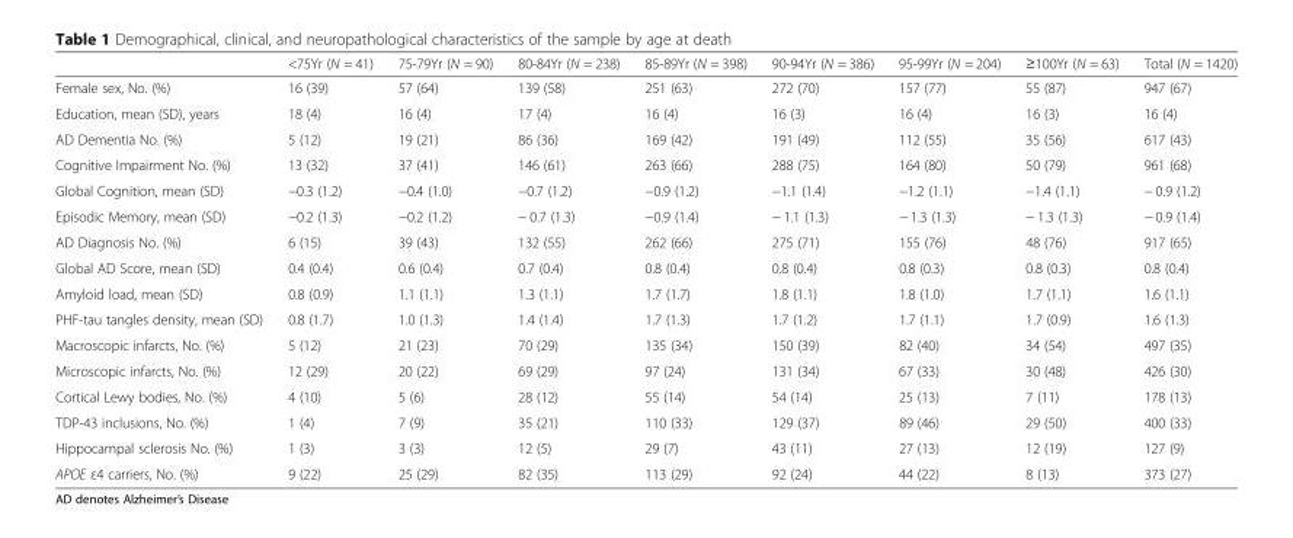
<table><thead><tr><td></td><td>&lt;75Yr (N = 41)</td><td>75-79Yr (N = 90)</td><td>80-84Yr (N = 238)</td><td>85-89Yr (N = 398)</td><td>90-94Yr (N = 386)</td><td>95-99Yr (N = 204)</td><td>≥100Yr (N = 63)</td><td>Total (N = 1420)</td></tr></thead><tbody><tr><td>Female sex, No. (%)</td><td>16 (39)</td><td>57 (64)</td><td>139 (58)</td><td>251 (63)</td><td>272 (70)</td><td>157 (77)</td><td>55 (87)</td><td>947 (67)</td></tr><tr><td>Education, mean (SD), years</td><td>18 (4)</td><td>16 (4)</td><td>17 (4)</td><td>16 (4)</td><td>16 (3)</td><td>16 (4)</td><td>16 (3)</td><td>16 (4)</td></tr><tr><td>AD Dementia No. (%)</td><td>5 (12)</td><td>19 (21)</td><td>86 (36)</td><td>169 (42)</td><td>191 (49)</td><td>112 (55)</td><td>35 (56)</td><td>617 (43)</td></tr><tr><td>Cognitive Impairment No. (%)</td><td>13 (32)</td><td>37 (41)</td><td>146 (61)</td><td>263 (66)</td><td>288 (75)</td><td>164 (80)</td><td>50 (79)</td><td>961 (68)</td></tr><tr><td>Global Cognition, mean (SD)</td><td>−0.3 (1.2)</td><td>−0.4 (1.0)</td><td>−0.7 (1.2)</td><td>−0.9 (1.2)</td><td>−1.1 (1.4)</td><td>−1.2 (1.1)</td><td>−1.4 (1.1)</td><td>− 0.9 (1.2)</td></tr><tr><td>Episodic Memory, mean (SD)</td><td>−0.2 (1.3)</td><td>−0.2 (1.2)</td><td>− 0.7 (1.3)</td><td>−0.9 (1.4)</td><td>− 1.1 (1.3)</td><td>− 1.3 (1.3)</td><td>− 1.3 (1.3)</td><td>− 0.9 (1.4)</td></tr><tr><td>AD Diagnosis No. (%)</td><td>6 (15)</td><td>39 (43)</td><td>132 (55)</td><td>262 (66)</td><td>275 (71)</td><td>155 (76)</td><td>48 (76)</td><td>917 (65)</td></tr><tr><td>Global AD Score, mean (SD)</td><td>0.4 (0.4)</td><td>0.6 (0.4)</td><td>0.7 (0.4)</td><td>0.8 (0.4)</td><td>0.8 (0.4)</td><td>0.8 (0.3)</td><td>0.8 (0.3)</td><td>0.8 (0.4)</td></tr><tr><td>Amyloid load, mean (SD)</td><td>0.8 (0.9)</td><td>1.1 (1.1)</td><td>1.3 (1.1)</td><td>1.7 (1.7)</td><td>1.8 (1.1)</td><td>1.8 (1.0)</td><td>1.7 (1.1)</td><td>1.6 (1.1)</td></tr><tr><td>PHF-tau tangles density, mean (SD)</td><td>0.8 (1.7)</td><td>1.0 (1.3)</td><td>1.4 (1.4)</td><td>1.7 (1.3)</td><td>1.7 (1.2)</td><td>1.7 (1.1)</td><td>1.7 (0.9)</td><td>1.6 (1.3)</td></tr><tr><td>Macroscopic infarcts, No. (%)</td><td>5 (12)</td><td>21 (23)</td><td>70 (29)</td><td>135 (34)</td><td>150 (39)</td><td>82 (40)</td><td>34 (54)</td><td>497 (35)</td></tr><tr><td>Microscopic infarcts, No. (%)</td><td>12 (29)</td><td>20 (22)</td><td>69 (29)</td><td>97 (24)</td><td>131 (34)</td><td>67 (33)</td><td>30 (48)</td><td>426 (30)</td></tr><tr><td>Cortical Lewy bodies, No. (%)</td><td>4 (10)</td><td>5 (6)</td><td>28 (12)</td><td>55 (14)</td><td>54 (14)</td><td>25 (13)</td><td>7 (11)</td><td>178 (13)</td></tr><tr><td>TDP-43 inclusions, No. (%)</td><td>1 (4)</td><td>7 (9)</td><td>35 (21)</td><td>110 (33)</td><td>129 (37)</td><td>89 (46)</td><td>29 (50)</td><td>400 (33)</td></tr><tr><td>Hippocampal sclerosis No. (%)</td><td>1 (3)</td><td>3 (3)</td><td>12 (5)</td><td>29 (7)</td><td>43 (11)</td><td>27 (13)</td><td>12 (19)</td><td>127 (9)</td></tr><tr><td>APOE ε4 carriers, No. (%)</td><td>9 (22)</td><td>25 (29)</td><td>82 (35)</td><td>113 (29)</td><td>92 (24)</td><td>44 (22)</td><td>8 (13)</td><td>373 (27)</td></tr></tbody></table>